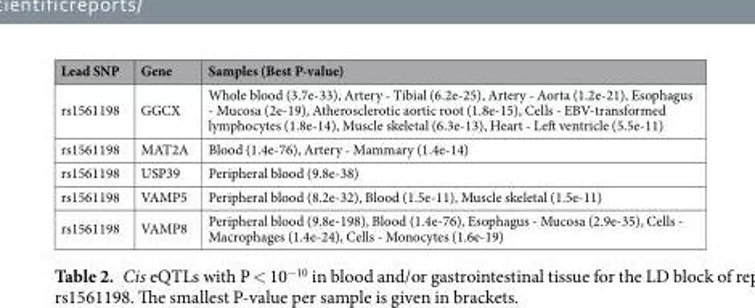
<table><thead><tr><td>Lead SNP</td><td>Gene</td><td>Samples (Best P-value)</td></tr></thead><tbody><tr><td>rs1561198</td><td>GGCX</td><td>Whole blood (3.7e-33), Artery - Tibial (6.2e-25), Artery - Aorta (1.2e-21), Esophagus - Mucosa (2e-19), Atherosclerotic aortic root (1.8e-15), Cells - EBV-transformed lymphocytes (1.8e-14), Muscle skeletal (6.3e-13), Heart - Left ventricle (5.5e-11)</td></tr><tr><td>rs1561198</td><td>MAT2A</td><td>Blood (1.4e-76), Artery - Mammary (1.4e-14)</td></tr><tr><td>rs1561198</td><td>USP39</td><td>Peripheral blood (9.8e-38)</td></tr><tr><td>rs1561198</td><td>VAMP5</td><td>Peripheral blood (8.2e-32), Blood (1.5e-11), Muscle skeletal (1.5e-11)</td></tr><tr><td>rs1561198</td><td>VAMP8</td><td>Peripheral blood (9.8e-198), Blood (1.4e-76), Esophagus - Mucosa (2.9e-35), Cells - Macrophages (1.4e-24), Cells - Monocytes (1.6e-19)</td></tr></tbody></table>